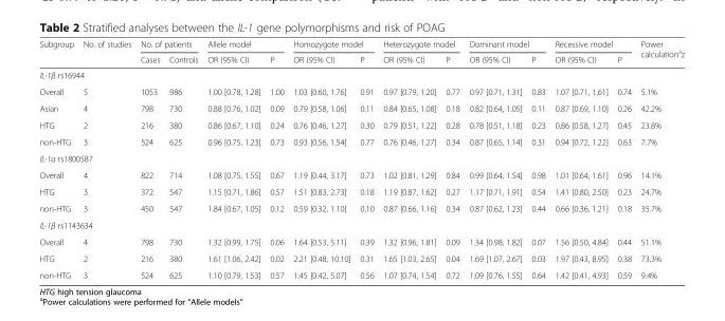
<table><thead><tr><td rowspan="2">Subgroup</td><td rowspan="2">No. of studies</td><td colspan="2">No. of patients</td><td colspan="2">Allele model</td><td colspan="2">Homozygote model</td><td colspan="2">Heterozygote model</td><td colspan="2">Dominant model</td><td colspan="2">Recessive model</td><td rowspan="2">Power calculation<sup>a</sup>z</td></tr><tr><td>Cases</td><td>Controls</td><td>OR (95% CI)</td><td>P</td><td>OR (95% CI)</td><td>P</td><td>OR (95% CI)</td><td>P</td><td>OR (95% CI)</td><td>P</td><td>OR (95% CI)</td><td>P</td></tr></thead><tbody><tr><td colspan="15">IL-1β rs16944</td></tr><tr><td>Overall</td><td>5</td><td>1053</td><td>986</td><td>1.00 [0.78, 1.28]</td><td>1.00</td><td>1.03 [0.60, 1.76]</td><td>0.91</td><td>0.97 [0.79, 1.20]</td><td>0.77</td><td>0.97 [0.71, 1.31]</td><td>0.83</td><td>1.07 [0.71, 1.61]</td><td>0.74</td><td>5.1%</td></tr><tr><td>Asian</td><td>4</td><td>798</td><td>730</td><td>0.88 [0.76, 1.02]</td><td>0.09</td><td>0.79 [0.58, 1.06]</td><td>0.11</td><td>0.84 [0.65, 1.08]</td><td>0.18</td><td>0.82 [0.64, 1.05]</td><td>0.11</td><td>0.87 [0.69, 1.10]</td><td>0.26</td><td>42.2%</td></tr><tr><td>HTG</td><td>2</td><td>216</td><td>380</td><td>0.86 [0.67, 1.10]</td><td>0.24</td><td>0.76 [0.46, 1.27]</td><td>0.30</td><td>0.79 [0.51, 1.22]</td><td>0.28</td><td>0.78 [0.51, 1.18]</td><td>0.23</td><td>0.86 [0.58, 1.27]</td><td>0.45</td><td>23.8%</td></tr><tr><td>non-HTG</td><td>3</td><td>524</td><td>625</td><td>0.96 [0.75, 1.23]</td><td>0.73</td><td>0.93 [0.56, 1.54]</td><td>0.77</td><td>0.76 [0.46, 1.27]</td><td>0.34</td><td>0.87 [0.65, 1.14]</td><td>0.31</td><td>0.94 [0.72, 1.22]</td><td>0.63</td><td>7.7%</td></tr><tr><td colspan="15">IL-1α rs1800587</td></tr><tr><td>Overall</td><td>4</td><td>822</td><td>714</td><td>1.08 [0.75, 1.55]</td><td>0.67</td><td>1.19 [0.44, 3.17]</td><td>0.73</td><td>1.02 [0.81, 1.29]</td><td>0.84</td><td>0.99 [0.64, 1.54]</td><td>0.98</td><td>1.01 [0.64, 1.61]</td><td>0.96</td><td>14.1%</td></tr><tr><td>HTG</td><td>3</td><td>372</td><td>547</td><td>1.15 [0.71, 1.86]</td><td>0.57</td><td>1.51 [0.83, 2.73]</td><td>0.18</td><td>1.19 [0.87, 1.62]</td><td>0.27</td><td>1.17 [0.71, 1.91]</td><td>0.54</td><td>1.41 [0.80, 2.50]</td><td>0.23</td><td>24.7%</td></tr><tr><td>non-HTG</td><td>3</td><td>450</td><td>547</td><td>1.84 [0.67, 1.05]</td><td>0.12</td><td>0.59 [0.32, 1.10]</td><td>0.10</td><td>0.87 [0.66, 1.16]</td><td>0.34</td><td>0.87 [0.62, 1.23]</td><td>0.44</td><td>0.66 [0.36, 1.21]</td><td>0.18</td><td>35.7%</td></tr><tr><td colspan="15">IL-1β rs1143634</td></tr><tr><td>Overall</td><td>4</td><td>798</td><td>730</td><td>1.32 [0.99, 1.75]</td><td>0.06</td><td>1.64 [0.53, 5.11]</td><td>0.39</td><td>1.32 [0.96, 1.81]</td><td>0.09</td><td>1.34 [0.98, 1.82]</td><td>0.07</td><td>1.56 [0.50, 4.84]</td><td>0.44</td><td>51.1%</td></tr><tr><td>HTG</td><td>2</td><td>216</td><td>380</td><td>1.61 [1.06, 2.42]</td><td>0.02</td><td>2.21 [0.48, 10.10]</td><td>0.31</td><td>1.65 [1.03, 2.65]</td><td>0.04</td><td>1.69 [1.07, 2.67]</td><td>0.03</td><td>1.97 [0.43, 8.95]</td><td>0.38</td><td>73.3%</td></tr><tr><td>non-HTG</td><td>3</td><td>524</td><td>625</td><td>1.10 [0.79, 1.53]</td><td>0.57</td><td>1.45 [0.42, 5.07]</td><td>0.56</td><td>1.07 [0.74, 1.54]</td><td>0.72</td><td>1.09 [0.76, 1.55]</td><td>0.64</td><td>1.42 [0.41, 4.93]</td><td>0.59</td><td>9.4%</td></tr></tbody></table>